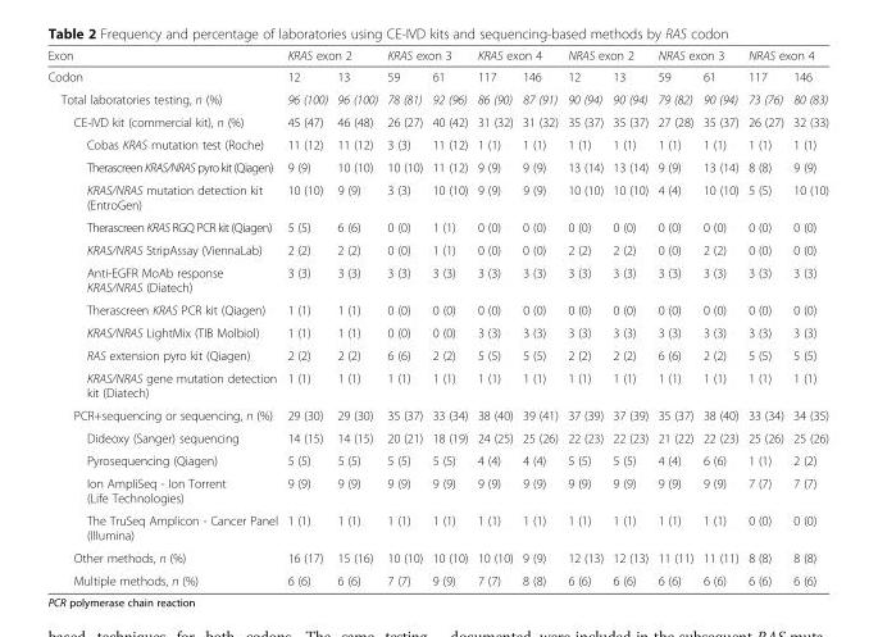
<table><thead><tr><td rowspan="2">Exon Codon</td><td colspan="2">KRAS exon 2</td><td colspan="2">KRAS exon 3</td><td colspan="2">KRAS exon 4</td><td colspan="2">NRAS exon 2</td><td colspan="2">NRAS exon 3</td><td colspan="2">NRAS exon 4</td></tr><tr><td>12</td><td>13</td><td>59</td><td>61</td><td>117</td><td>146</td><td>12</td><td>13</td><td>59</td><td>61</td><td>117</td><td>146</td></tr></thead><tbody><tr><td>Total laboratories testing, n (%)</td><td>96 (100)</td><td>96 (100)</td><td>78 (81)</td><td>92 (96)</td><td>86 (90)</td><td>87 (91)</td><td>90 (94)</td><td>90 (94)</td><td>79 (82)</td><td>90 (94)</td><td>73 (76)</td><td>80 (83)</td></tr><tr><td>CE-IVD kit (commercial kit), n (%)</td><td>45 (47)</td><td>46 (48)</td><td>26 (27)</td><td>40 (42)</td><td>31 (32)</td><td>31 (32)</td><td>35 (37)</td><td>35 (37)</td><td>27 (28)</td><td>35 (37)</td><td>26 (27)</td><td>32 (33)</td></tr><tr><td>Cobas KRAS mutation test (Roche)</td><td>11 (12)</td><td>11 (12)</td><td>3 (3)</td><td>11 (12)</td><td>1 (1)</td><td>1 (1)</td><td>1 (1)</td><td>1 (1)</td><td>1 (1)</td><td>1 (1)</td><td>1 (1)</td><td>1 (1)</td></tr><tr><td>TherascreenKRAS/NRAS pyrokit (Qiagen)</td><td>9 (9)</td><td>10 (10)</td><td>10 (10)</td><td>11 (12)</td><td>9 (9)</td><td>9 (9)</td><td>13 (14)</td><td>13 (14)</td><td>9 (9)</td><td>13 (14)</td><td>8 (8)</td><td>9 (9)</td></tr><tr><td>KRAS/NRAS mutation detection kit (EntroGen)</td><td>10 (10)</td><td>9 (9)</td><td>3 (3)</td><td>10 (10)</td><td>9 (9)</td><td>9 (9)</td><td>10 (10)</td><td>10 (10)</td><td>4 (4)</td><td>10 (10)</td><td>5 (5)</td><td>10 (10)</td></tr><tr><td>Therascreen KRAS RGQ PCR kit (Qiagen)</td><td>5 (5)</td><td>6 (6)</td><td>0 (0)</td><td>1 (1)</td><td>0 (0)</td><td>0 (0)</td><td>0 (0)</td><td>0 (0)</td><td>0 (0)</td><td>0 (0)</td><td>0 (0)</td><td>0 (0)</td></tr><tr><td>KRAS/NRAS StripAssay (ViennaLab)</td><td>2 (2)</td><td>2 (2)</td><td>0 (0)</td><td>1 (1)</td><td>0 (0)</td><td>0 (0)</td><td>2 (2)</td><td>2 (2)</td><td>0 (0)</td><td>2 (2)</td><td>0 (0)</td><td>0 (0)</td></tr><tr><td>Anti-EGFR MoAb response KRAS/NRAS (Diatech)</td><td>3 (3)</td><td>3 (3)</td><td>3 (3)</td><td>3 (3)</td><td>3 (3)</td><td>3 (3)</td><td>3 (3)</td><td>3 (3)</td><td>3 (3)</td><td>3 (3)</td><td>3 (3)</td><td>3 (3)</td></tr><tr><td>Therascreen KRAS PCR kit (Qiagen)</td><td>1 (1)</td><td>1 (1)</td><td>0 (0)</td><td>0 (0)</td><td>0 (0)</td><td>0 (0)</td><td>0 (0)</td><td>0 (0)</td><td>0 (0)</td><td>0 (0)</td><td>0 (0)</td><td>0 (0)</td></tr><tr><td>KRAS/NRAS LightMix (TIB Molbiol)</td><td>1 (1)</td><td>1 (1)</td><td>0 (0)</td><td>0 (0)</td><td>3 (3)</td><td>3 (3)</td><td>3 (3)</td><td>3 (3)</td><td>3 (3)</td><td>3 (3)</td><td>3 (3)</td><td>3 (3)</td></tr><tr><td>RAS extension pyro kit (Qiagen)</td><td>2 (2)</td><td>2 (2)</td><td>6 (6)</td><td>2 (2)</td><td>5 (5)</td><td>5 (5)</td><td>2 (2)</td><td>2 (2)</td><td>6 (6)</td><td>2 (2)</td><td>5 (5)</td><td>5 (5)</td></tr><tr><td>KRAS/NRAS gene mutation detection kit (Diatech)</td><td>1 (1)</td><td>1 (1)</td><td>1 (1)</td><td>1 (1)</td><td>1 (1)</td><td>1 (1)</td><td>1 (1)</td><td>1 (1)</td><td>1 (1)</td><td>1 (1)</td><td>1 (1)</td><td>1 (1)</td></tr><tr><td>PCR+sequencing or sequencing, n (%)</td><td>29 (30)</td><td>29 (30)</td><td>35 (37)</td><td>33 (34)</td><td>38 (40)</td><td>39 (41)</td><td>37 (39)</td><td>37 (39)</td><td>35 (37)</td><td>38 (40)</td><td>33 (34)</td><td>34 (35)</td></tr><tr><td>Dideoxy (Sanger) sequencing</td><td>14 (15)</td><td>14 (15)</td><td>20 (21)</td><td>18 (19)</td><td>24 (25)</td><td>25 (26)</td><td>22 (23)</td><td>22 (23)</td><td>21 (22)</td><td>22 (23)</td><td>25 (26)</td><td>25 (26)</td></tr><tr><td>Pyrosequencing (Qiagen)</td><td>5 (5)</td><td>5 (5)</td><td>5 (5)</td><td>5 (5)</td><td>4 (4)</td><td>4 (4)</td><td>5 (5)</td><td>5 (5)</td><td>4 (4)</td><td>6 (6)</td><td>1 (1)</td><td>2 (2)</td></tr><tr><td>Ion AmpliSeq - Ion Torrent (Life Technologies)</td><td>9 (9)</td><td>9 (9)</td><td>9 (9)</td><td>9 (9)</td><td>9 (9)</td><td>9 (9)</td><td>9 (9)</td><td>9 (9)</td><td>9 (9)</td><td>9 (9)</td><td>7 (7)</td><td>7 (7)</td></tr><tr><td>The TruSeq Amplicon - Cancer Panel (Illumina)</td><td>1 (1)</td><td>1 (1)</td><td>1 (1)</td><td>1 (1)</td><td>1 (1)</td><td>1 (1)</td><td>1 (1)</td><td>1 (1)</td><td>1 (1)</td><td>1 (1)</td><td>0 (0)</td><td>0 (0)</td></tr><tr><td>Other methods, n (%)</td><td>16 (17)</td><td>15 (16)</td><td>10 (10)</td><td>10 (10)</td><td>10 (10)</td><td>9 (9)</td><td>12 (13)</td><td>12 (13)</td><td>11 (11)</td><td>11 (11)</td><td>8 (8)</td><td>8 (8)</td></tr><tr><td>Multiple methods, n (%)</td><td>6 (6)</td><td>6 (6)</td><td>7 (7)</td><td>9 (9)</td><td>7 (7)</td><td>8 (8)</td><td>6 (6)</td><td>6 (6)</td><td>6 (6)</td><td>6 (6)</td><td>6 (6)</td><td>6 (6)</td></tr></tbody></table>